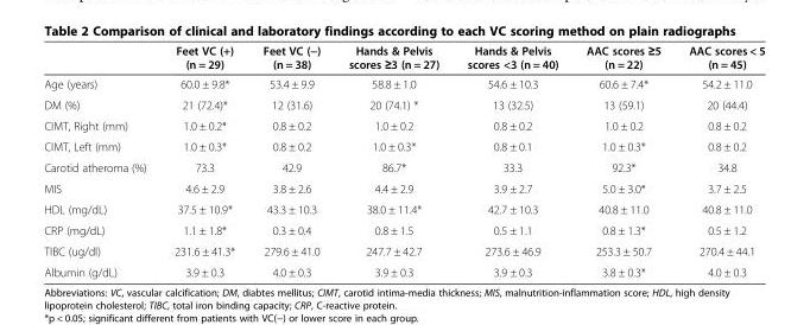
<table><thead><tr><td></td><td>Feet VC (+) (n = 29)</td><td>Feet VC (−) (n = 38)</td><td>Hands &amp; Pelvis scores ≥3 (n = 27)</td><td>Hands &amp; Pelvis scores &lt;3 (n = 40)</td><td>AAC scores ≥5 (n = 22)</td><td>AAC scores &lt; 5 (n = 45)</td></tr></thead><tbody><tr><td>Age (years)</td><td>60.0 ± 9.8*</td><td>53.4 ± 9.9</td><td>58.8 ± 1.0</td><td>54.6 ± 10.3</td><td>60.6 ± 7.4*</td><td>54.2 ± 11.0</td></tr><tr><td>DM (%)</td><td>21 (72.4)*</td><td>12 (31.6)</td><td>20 (74.1) *</td><td>13 (32.5)</td><td>13 (59.1)</td><td>20 (44.4)</td></tr><tr><td>CIMT, Right (mm)</td><td>1.0 ± 0.2*</td><td>0.8 ± 0.2</td><td>1.0 ± 0.2</td><td>0.8 ± 0.2</td><td>1.0 ± 0.2</td><td>0.8 ± 0.2</td></tr><tr><td>CIMT, Left (mm)</td><td>1.0 ± 0.3*</td><td>0.8 ± 0.2</td><td>1.0 ± 0.3*</td><td>0.8 ± 0.1</td><td>1.0 ± 0.3*</td><td>0.8 ± 0.2</td></tr><tr><td>Carotid atheroma (%)</td><td>73.3</td><td>42.9</td><td>86.7*</td><td>33.3</td><td>92.3*</td><td>34.8</td></tr><tr><td>MIS</td><td>4.6 ± 2.9</td><td>3.8 ± 2.6</td><td>4.4 ± 2.9</td><td>3.9 ± 2.7</td><td>5.0 ± 3.0*</td><td>3.7 ± 2.5</td></tr><tr><td>HDL (mg/dL)</td><td>37.5 ± 10.9*</td><td>43.3 ± 10.3</td><td>38.0 ± 11.4*</td><td>42.7 ± 10.3</td><td>40.8 ± 11.0</td><td>40.8 ± 11.0</td></tr><tr><td>CRP (mg/dL)</td><td>1.1 ± 1.8*</td><td>0.3 ± 0.4</td><td>0.8 ± 1.5</td><td>0.5 ± 1.1</td><td>0.8 ± 1.3*</td><td>0.5 ± 1.2</td></tr><tr><td>TIBC (ug/dl)</td><td>231.6 ± 41.3*</td><td>279.6 ± 41.0</td><td>247.7 ± 42.7</td><td>273.6 ± 46.9</td><td>253.3 ± 50.7</td><td>270.4 ± 44.1</td></tr><tr><td>Albumin (g/dL)</td><td>3.9 ± 0.3</td><td>4.0 ± 0.3</td><td>3.9 ± 0.3</td><td>3.9 ± 0.3</td><td>3.8 ± 0.3*</td><td>4.0 ± 0.3</td></tr></tbody></table>